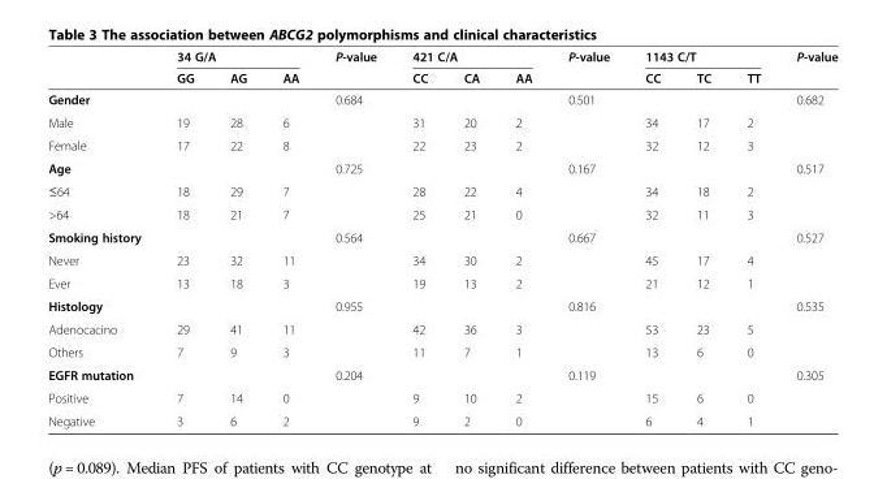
<table><thead><tr><td rowspan="2"></td><td colspan="3">34 G/A</td><td rowspan="2">P-value</td><td colspan="3">421 C/A</td><td rowspan="2">P-value</td><td colspan="3">1143 C/T</td><td rowspan="2">P-value</td></tr><tr><td>GG</td><td>AG</td><td>AA</td><td>CC</td><td>CA</td><td>AA</td><td>CC</td><td>TC</td><td>TT</td></tr></thead><tbody><tr><td>Gender</td><td></td><td></td><td></td><td>0.684</td><td></td><td></td><td></td><td>0.501</td><td></td><td></td><td></td><td>0.682</td></tr><tr><td>Male</td><td>19</td><td>28</td><td>6</td><td></td><td>31</td><td>20</td><td>2</td><td></td><td>34</td><td>17</td><td>2</td><td></td></tr><tr><td>Female</td><td>17</td><td>22</td><td>8</td><td></td><td>22</td><td>23</td><td>2</td><td></td><td>32</td><td>12</td><td>3</td><td></td></tr><tr><td>Age</td><td></td><td></td><td></td><td>0.725</td><td></td><td></td><td></td><td>0.167</td><td></td><td></td><td></td><td>0.517</td></tr><tr><td>≤64</td><td>18</td><td>29</td><td>7</td><td></td><td>28</td><td>22</td><td>4</td><td></td><td>34</td><td>18</td><td>2</td><td></td></tr><tr><td>&gt;64</td><td>18</td><td>21</td><td>7</td><td></td><td>25</td><td>21</td><td>0</td><td></td><td>32</td><td>11</td><td>3</td><td></td></tr><tr><td>Smoking history</td><td></td><td></td><td></td><td>0.564</td><td></td><td></td><td></td><td>0.667</td><td></td><td></td><td></td><td>0.527</td></tr><tr><td>Never</td><td>23</td><td>32</td><td>11</td><td></td><td>34</td><td>30</td><td>2</td><td></td><td>45</td><td>17</td><td>4</td><td></td></tr><tr><td>Ever</td><td>13</td><td>18</td><td>3</td><td></td><td>19</td><td>13</td><td>2</td><td></td><td>21</td><td>12</td><td>1</td><td></td></tr><tr><td>Histology</td><td></td><td></td><td></td><td>0.955</td><td></td><td></td><td></td><td>0.816</td><td></td><td></td><td></td><td>0.535</td></tr><tr><td>Adenocacino</td><td>29</td><td>41</td><td>11</td><td></td><td>42</td><td>36</td><td>3</td><td></td><td>53</td><td>23</td><td>5</td><td></td></tr><tr><td>Others</td><td>7</td><td>9</td><td>3</td><td></td><td>11</td><td>7</td><td>1</td><td></td><td>13</td><td>6</td><td>0</td><td></td></tr><tr><td>EGFR mutation</td><td></td><td></td><td></td><td>0.204</td><td></td><td></td><td></td><td>0.119</td><td></td><td></td><td></td><td>0.305</td></tr><tr><td>Positive</td><td>7</td><td>14</td><td>0</td><td></td><td>9</td><td>10</td><td>2</td><td></td><td>15</td><td>6</td><td>0</td><td></td></tr><tr><td>Negative</td><td>3</td><td>6</td><td>2</td><td></td><td>9</td><td>2</td><td>0</td><td></td><td>6</td><td>4</td><td>1</td><td></td></tr></tbody></table>